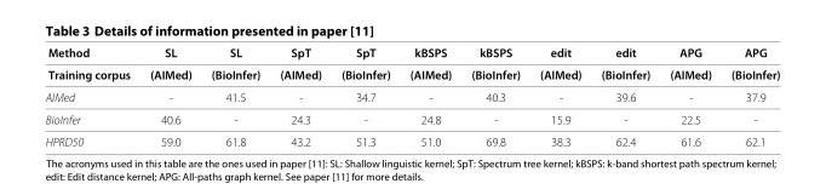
<table><thead><tr><td>Method</td><td>SL</td><td>SL</td><td>SpT</td><td>SpT</td><td>kBSPS</td><td>kBSPS</td><td>edit</td><td>edit</td><td>APG</td><td>APG</td></tr></thead><tbody><tr><td>Training corpus</td><td>(AIMed)</td><td>(BioInfer)</td><td>(AIMed)</td><td>(BioInfer)</td><td>(AIMed)</td><td>(BioInfer)</td><td>(AIMed)</td><td>(BioInfer)</td><td>(AIMed)</td><td>(BioInfer)</td></tr><tr><td>AIMed</td><td>-</td><td>41.5</td><td>-</td><td>34.7</td><td>-</td><td>40.3</td><td>-</td><td>39.6</td><td>-</td><td>37.9</td></tr><tr><td>BioInfer</td><td>40.6</td><td>-</td><td>24.3</td><td>-</td><td>24.8</td><td>-</td><td>15.9</td><td>-</td><td>22.5</td><td>-</td></tr><tr><td>HPRD50</td><td>59.0</td><td>61.8</td><td>43.2</td><td>51.3</td><td>51.0</td><td>69.8</td><td>38.3</td><td>62.4</td><td>61.6</td><td>62.1</td></tr></tbody></table>